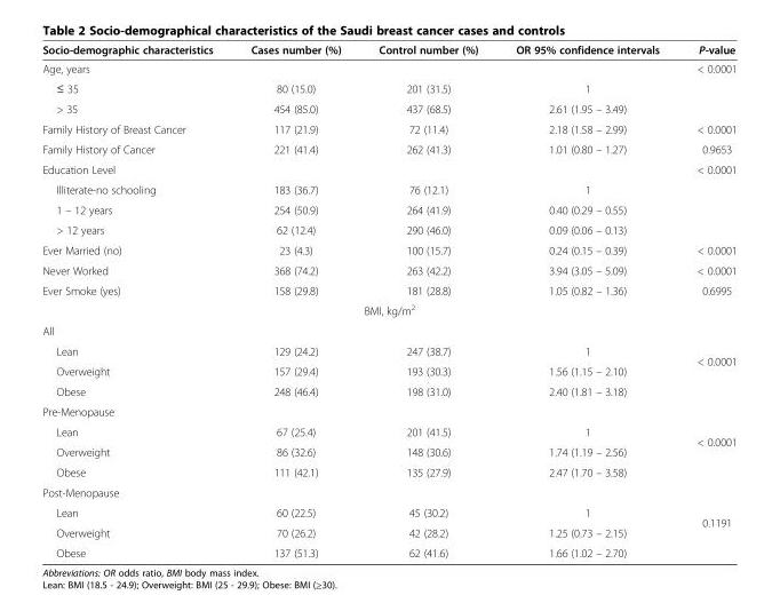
<table><thead><tr><td>Socio-demographic characteristics</td><td>Cases number (%)</td><td>Control number (%)</td><td>OR 95% confidence intervals</td><td>P-value</td></tr></thead><tbody><tr><td colspan="4">Age, years</td><td rowspan="3">&lt; 0.0001</td></tr><tr><td>≤ 35</td><td>80 (15.0)</td><td>201 (31.5)</td><td>1</td></tr><tr><td>&gt; 35</td><td>454 (85.0)</td><td>437 (68.5)</td><td>2.61 (1.95 – 3.49)</td></tr><tr><td>Family History of Breast Cancer</td><td>117 (21.9)</td><td>72 (11.4)</td><td>2.18 (1.58 – 2.99)</td><td>&lt; 0.0001</td></tr><tr><td>Family History of Cancer</td><td>221 (41.4)</td><td>262 (41.3)</td><td>1.01 (0.80 – 1.27)</td><td>0.9653</td></tr><tr><td colspan="4">Education Level</td><td rowspan="4">&lt; 0.0001</td></tr><tr><td>Illiterate-no schooling</td><td>183 (36.7)</td><td>76 (12.1)</td><td>1</td></tr><tr><td>1 – 12 years</td><td>254 (50.9)</td><td>264 (41.9)</td><td>0.40 (0.29 – 0.55)</td></tr><tr><td>&gt; 12 years</td><td>62 (12.4)</td><td>290 (46.0)</td><td>0.09 (0.06 – 0.13)</td></tr><tr><td>Ever Married (no)</td><td>23 (4.3)</td><td>100 (15.7)</td><td>0.24 (0.15 – 0.39)</td><td>&lt; 0.0001</td></tr><tr><td>Never Worked</td><td>368 (74.2)</td><td>263 (42.2)</td><td>3.94 (3.05 – 5.09)</td><td>&lt; 0.0001</td></tr><tr><td>Ever Smoke (yes)</td><td>158 (29.8)</td><td>181 (28.8)</td><td>1.05 (0.82 – 1.36)</td><td>0.6995</td></tr><tr><td colspan="5">BMI, kg/m<sup>2</sup></td></tr><tr><td colspan="4">All</td><td rowspan="4">&lt; 0.0001</td></tr><tr><td>Lean</td><td>129 (24.2)</td><td>247 (38.7)</td><td>1</td></tr><tr><td>Overweight</td><td>157 (29.4)</td><td>193 (30.3)</td><td>1.56 (1.15 – 2.10)</td></tr><tr><td>Obese</td><td>248 (46.4)</td><td>198 (31.0)</td><td>2.40 (1.81 – 3.18)</td></tr><tr><td colspan="4">Pre-Menopause</td><td rowspan="4">&lt; 0.0001</td></tr><tr><td>Lean</td><td>67 (25.4)</td><td>201 (41.5)</td><td>1</td></tr><tr><td>Overweight</td><td>86 (32.6)</td><td>148 (30.6)</td><td>1.74 (1.19 – 2.56)</td></tr><tr><td>Obese</td><td>111 (42.1)</td><td>135 (27.9)</td><td>2.47 (1.70 – 3.58)</td></tr><tr><td colspan="4">Post-Menopause</td><td rowspan="4">0.1191</td></tr><tr><td>Lean</td><td>60 (22.5)</td><td>45 (30.2)</td><td>1</td></tr><tr><td>Overweight</td><td>70 (26.2)</td><td>42 (28.2)</td><td>1.25 (0.73 – 2.15)</td></tr><tr><td>Obese</td><td>137 (51.3)</td><td>62 (41.6)</td><td>1.66 (1.02 – 2.70)</td></tr></tbody></table>